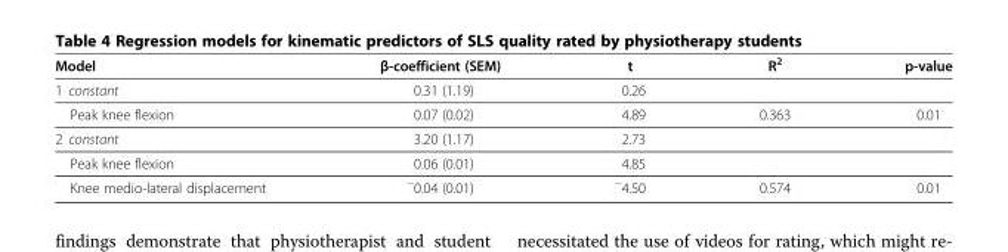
<table><thead><tr><td>Model</td><td>β-coefficient (SEM)</td><td>t</td><td>R<sup>2</sup></td><td>p-value</td></tr></thead><tbody><tr><td>1 constant</td><td>0.31 (1.19)</td><td>0.26</td><td></td><td></td></tr><tr><td>Peak knee flexion</td><td>0.07 (0.02)</td><td>4.89</td><td>0.363</td><td>0.01</td></tr><tr><td>2 constant</td><td>3.20 (1.17)</td><td>2.73</td><td></td><td></td></tr><tr><td>Peak knee flexion</td><td>0.06 (0.01)</td><td>4.85</td><td></td><td></td></tr><tr><td>Knee medio-lateral displacement</td><td><sup>−</sup>0.04 (0.01)</td><td><sup>−</sup>4.50</td><td>0.574</td><td>0.01</td></tr></tbody></table>